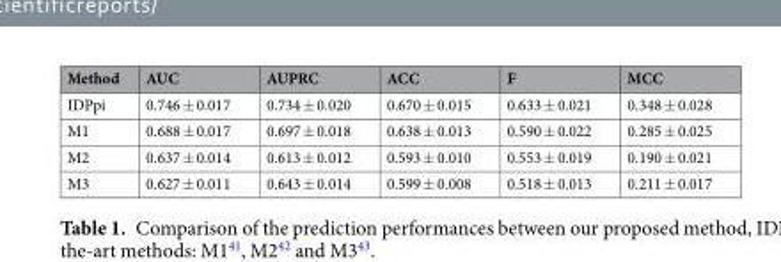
<table><thead><tr><td>Method</td><td>AUC</td><td>AUPRC</td><td>ACC</td><td>F</td><td>MCC</td></tr></thead><tbody><tr><td>IDPpi</td><td>0.746 ± 0.017</td><td>0.734 ± 0.020</td><td>0.670 ± 0.015</td><td>0.633 ± 0.021</td><td>0.348 ± 0.028</td></tr><tr><td>M1</td><td>0.688 ± 0.017</td><td>0.697 ± 0.018</td><td>0.638 ± 0.013</td><td>0.590 ± 0.022</td><td>0.285 ± 0.025</td></tr><tr><td>M2</td><td>0.637 ± 0.014</td><td>0.613 ± 0.012</td><td>0.593 ± 0.010</td><td>0.553 ± 0.019</td><td>0.190 ± 0.021</td></tr><tr><td>M3</td><td>0.627 ± 0.011</td><td>0.643 ± 0.014</td><td>0.599 ± 0.008</td><td>0.518 ± 0.013</td><td>0.211 ± 0.017</td></tr></tbody></table>